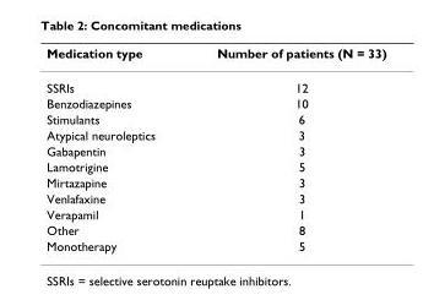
<table><thead><tr><td>Medication type</td><td>Number of patients (N = 33)</td></tr></thead><tbody><tr><td>SSRIs</td><td>12</td></tr><tr><td>Benzodiazepines</td><td>10</td></tr><tr><td>Stimulants</td><td>6</td></tr><tr><td>Atypical neuroleptics</td><td>3</td></tr><tr><td>Gabapentin</td><td>3</td></tr><tr><td>Lamotrigine</td><td>5</td></tr><tr><td>Mirtazapine</td><td>3</td></tr><tr><td>Venlafaxine</td><td>3</td></tr><tr><td>Verapamil</td><td>1</td></tr><tr><td>Other</td><td>8</td></tr><tr><td>Monotherapy</td><td>5</td></tr></tbody></table>